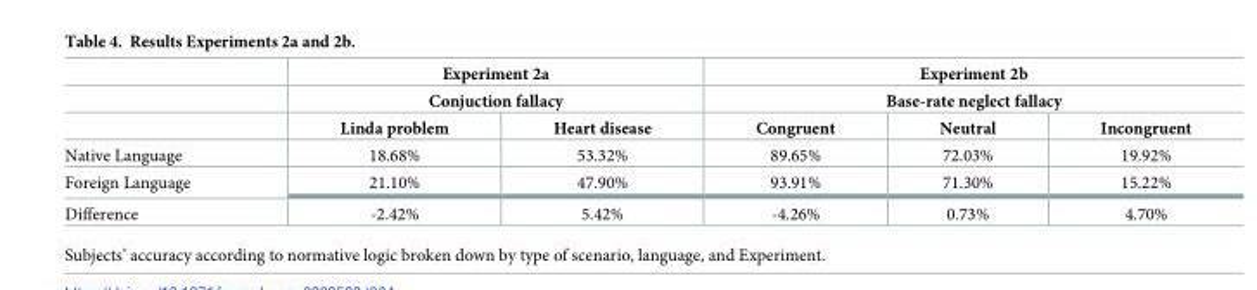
<table><thead><tr><td rowspan="3"></td><td rowspan="2" colspan="2">Experiment 2a Conjuction fallacy</td><td rowspan="2" colspan="3">Experiment 2b Base-rate neglect fallacy</td></tr><tr></tr><tr><td>Linda problem</td><td>Heart disease</td><td>Congruent</td><td>Neutral</td><td>Incongruent</td></tr></thead><tbody><tr><td>Native Language</td><td>18.68%</td><td>53.32%</td><td>89.65%</td><td>72.03%</td><td>19.92%</td></tr><tr><td>Foreign Language</td><td>21.10%</td><td>47.90%</td><td>93.91%</td><td>71.30%</td><td>15.22%</td></tr><tr><td>Difference</td><td>-2.42%</td><td>5.42%</td><td>-4.26%</td><td>0.73%</td><td>4.70%</td></tr></tbody></table>